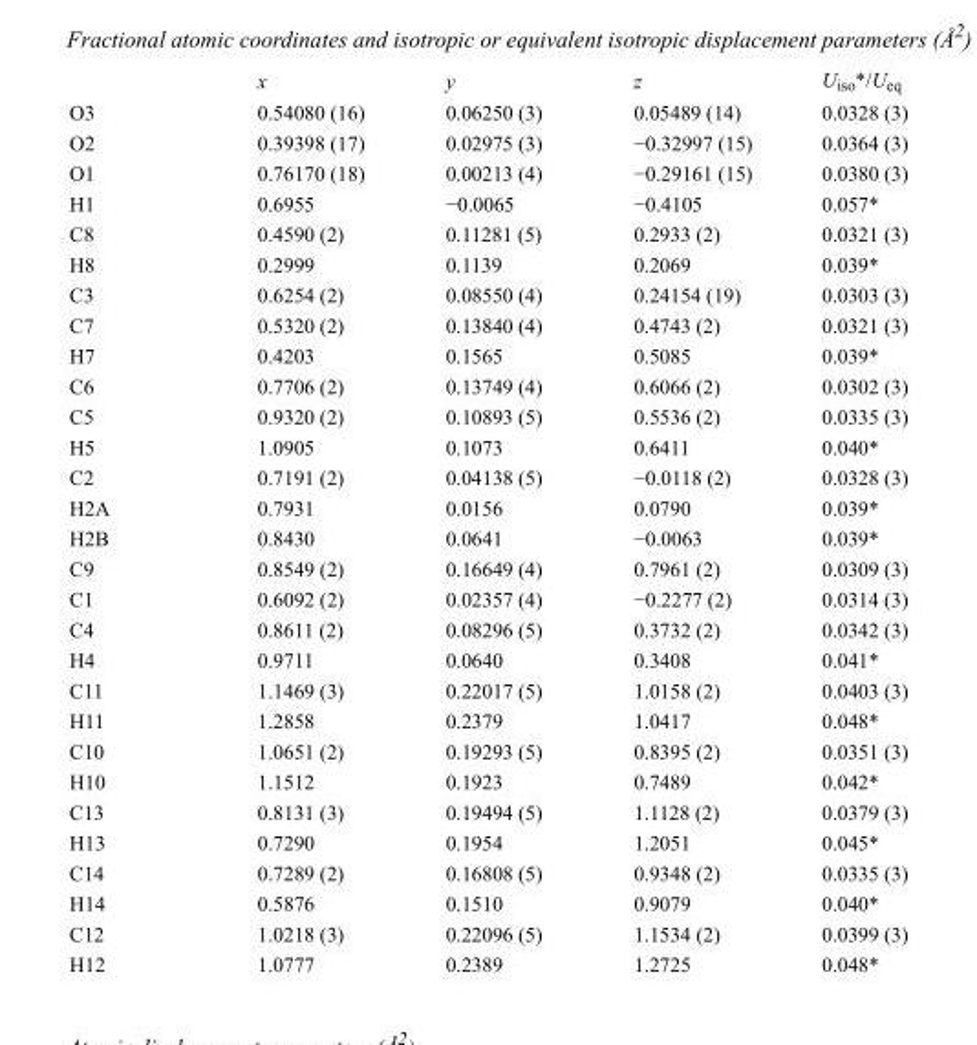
<table><thead><tr><td></td><td>x</td><td>y</td><td>z</td><td>U<sub>iso</sub>*/U<sub>eq</sub></td></tr></thead><tbody><tr><td>O3</td><td>0.54080 (16)</td><td>0.06250 (3)</td><td>0.05489 (14)</td><td>0.0328 (3)</td></tr><tr><td>O2</td><td>0.39398 (17)</td><td>0.02975 (3)</td><td>−0.32997 (15)</td><td>0.0364 (3)</td></tr><tr><td>O1</td><td>0.76170 (18)</td><td>0.00213 (4)</td><td>−0.29161 (15)</td><td>0.0380 (3)</td></tr><tr><td>H1</td><td>0.6955</td><td>−0.0065</td><td>−0.4105</td><td>0.057*</td></tr><tr><td>C8</td><td>0.4590 (2)</td><td>0.11281 (5)</td><td>0.2933 (2)</td><td>0.0321 (3)</td></tr><tr><td>H8</td><td>0.2999</td><td>0.1139</td><td>0.2069</td><td>0.039*</td></tr><tr><td>C3</td><td>0.6254 (2)</td><td>0.08550 (4)</td><td>0.24154 (19)</td><td>0.0303 (3)</td></tr><tr><td>C7</td><td>0.5320 (2)</td><td>0.13840 (4)</td><td>0.4743 (2)</td><td>0.0321 (3)</td></tr><tr><td>H7</td><td>0.4203</td><td>0.1565</td><td>0.5085</td><td>0.039*</td></tr><tr><td>C6</td><td>0.7706 (2)</td><td>0.13749 (4)</td><td>0.6066 (2)</td><td>0.0302 (3)</td></tr><tr><td>C5</td><td>0.9320 (2)</td><td>0.10893 (5)</td><td>0.5536 (2)</td><td>0.0335 (3)</td></tr><tr><td>H5</td><td>1.0905</td><td>0.1073</td><td>0.6411</td><td>0.040*</td></tr><tr><td>C2</td><td>0.7191 (2)</td><td>0.04138 (5)</td><td>−0.0118 (2)</td><td>0.0328 (3)</td></tr><tr><td>H2A</td><td>0.7931</td><td>0.0156</td><td>0.0790</td><td>0.039*</td></tr><tr><td>H2B</td><td>0.8430</td><td>0.0641</td><td>−0.0063</td><td>0.039*</td></tr><tr><td>C9</td><td>0.8549 (2)</td><td>0.16649 (4)</td><td>0.7961 (2)</td><td>0.0309 (3)</td></tr><tr><td>C1</td><td>0.6092 (2)</td><td>0.02357 (4)</td><td>−0.2277 (2)</td><td>0.0314 (3)</td></tr><tr><td>C4</td><td>0.8611 (2)</td><td>0.08296 (5)</td><td>0.3732 (2)</td><td>0.0342 (3)</td></tr><tr><td>H4</td><td>0.9711</td><td>0.0640</td><td>0.3408</td><td>0.041*</td></tr><tr><td>C11</td><td>1.1469 (3)</td><td>0.22017 (5)</td><td>1.0158 (2)</td><td>0.0403 (3)</td></tr><tr><td>H11</td><td>1.2858</td><td>0.2379</td><td>1.0417</td><td>0.048*</td></tr><tr><td>C10</td><td>1.0651 (2)</td><td>0.19293 (5)</td><td>0.8395 (2)</td><td>0.0351 (3)</td></tr><tr><td>H10</td><td>1.1512</td><td>0.1923</td><td>0.7489</td><td>0.042*</td></tr><tr><td>C13</td><td>0.8131 (3)</td><td>0.19494 (5)</td><td>1.1128 (2)</td><td>0.0379 (3)</td></tr><tr><td>H13</td><td>0.7290</td><td>0.1954</td><td>1.2051</td><td>0.045*</td></tr><tr><td>C14</td><td>0.7289 (2)</td><td>0.16808 (5)</td><td>0.9348 (2)</td><td>0.0335 (3)</td></tr><tr><td>H14</td><td>0.5876</td><td>0.1510</td><td>0.9079</td><td>0.040*</td></tr><tr><td>C12</td><td>1.0218 (3)</td><td>0.22096 (5)</td><td>1.1534 (2)</td><td>0.0399 (3)</td></tr><tr><td>H12</td><td>1.0777</td><td>0.2389</td><td>1.2725</td><td>0.048*</td></tr></tbody></table>